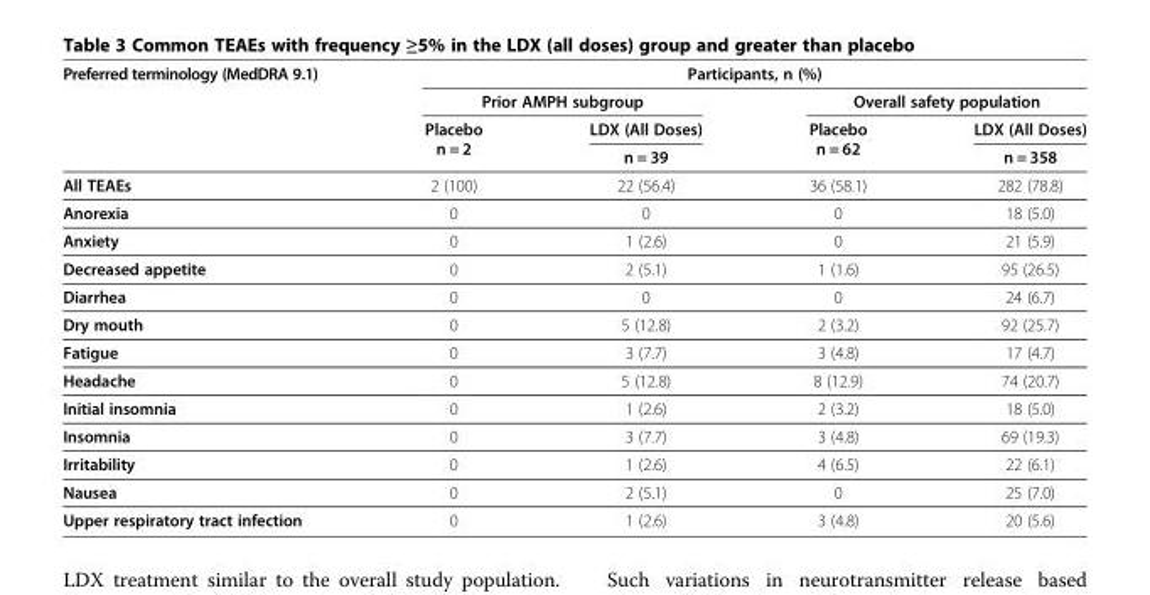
<table><thead><tr><td rowspan="4">Preferred terminology (MedDRA 9.1)</td><td colspan="4">Participants, n (%)</td></tr><tr><td colspan="2">Prior AMPH subgroup</td><td colspan="2">Overall safety population</td></tr><tr><td rowspan="2">Placebo n = 2</td><td rowspan="2">LDX (All Doses) n = 39</td><td rowspan="2">Placebo n = 62</td><td rowspan="2">LDX (All Doses) n = 358</td></tr><tr></tr></thead><tbody><tr><td>All TEAEs</td><td>2 (100)</td><td>22 (56.4)</td><td>36 (58.1)</td><td>282 (78.8)</td></tr><tr><td>Anorexia</td><td>0</td><td>0</td><td>0</td><td>18 (5.0)</td></tr><tr><td>Anxiety</td><td>0</td><td>1 (2.6)</td><td>0</td><td>21 (5.9)</td></tr><tr><td>Decreased appetite</td><td>0</td><td>2 (5.1)</td><td>1 (1.6)</td><td>95 (26.5)</td></tr><tr><td>Diarrhea</td><td>0</td><td>0</td><td>0</td><td>24 (6.7)</td></tr><tr><td>Dry mouth</td><td>0</td><td>5 (12.8)</td><td>2 (3.2)</td><td>92 (25.7)</td></tr><tr><td>Fatigue</td><td>0</td><td>3 (7.7)</td><td>3 (4.8)</td><td>17 (4.7)</td></tr><tr><td>Headache</td><td>0</td><td>5 (12.8)</td><td>8 (12.9)</td><td>74 (20.7)</td></tr><tr><td>Initial insomnia</td><td>0</td><td>1 (2.6)</td><td>2 (3.2)</td><td>18 (5.0)</td></tr><tr><td>Insomnia</td><td>0</td><td>3 (7.7)</td><td>3 (4.8)</td><td>69 (19.3)</td></tr><tr><td>Irritability</td><td>0</td><td>1 (2.6)</td><td>4 (6.5)</td><td>22 (6.1)</td></tr><tr><td>Nausea</td><td>0</td><td>2 (5.1)</td><td>0</td><td>25 (7.0)</td></tr><tr><td>Upper respiratory tract infection</td><td>0</td><td>1 (2.6)</td><td>3 (4.8)</td><td>20 (5.6)</td></tr></tbody></table>